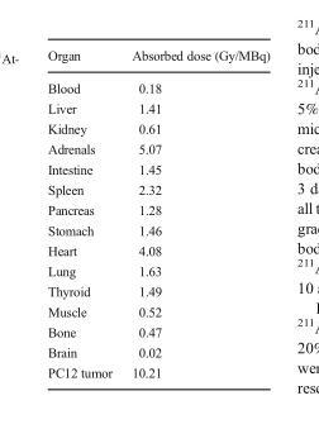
<table><thead><tr><td>Organ</td><td>Absorbed dose (Gy/MBq)</td></tr></thead><tbody><tr><td>Blood</td><td>0.18</td></tr><tr><td>Liver</td><td>1.41</td></tr><tr><td>Kidney</td><td>0.61</td></tr><tr><td>Adrenals</td><td>5.07</td></tr><tr><td>Intestine</td><td>1.45</td></tr><tr><td>Spleen</td><td>2.32</td></tr><tr><td>Pancreas</td><td>1.28</td></tr><tr><td>Stomach</td><td>1.46</td></tr><tr><td>Heart</td><td>4.08</td></tr><tr><td>Lung</td><td>1.63</td></tr><tr><td>Thyroid</td><td>1.49</td></tr><tr><td>Muscle</td><td>0.52</td></tr><tr><td>Bone</td><td>0.47</td></tr><tr><td>Brain</td><td>0.02</td></tr><tr><td>PC12 tumor</td><td>10.21</td></tr></tbody></table>